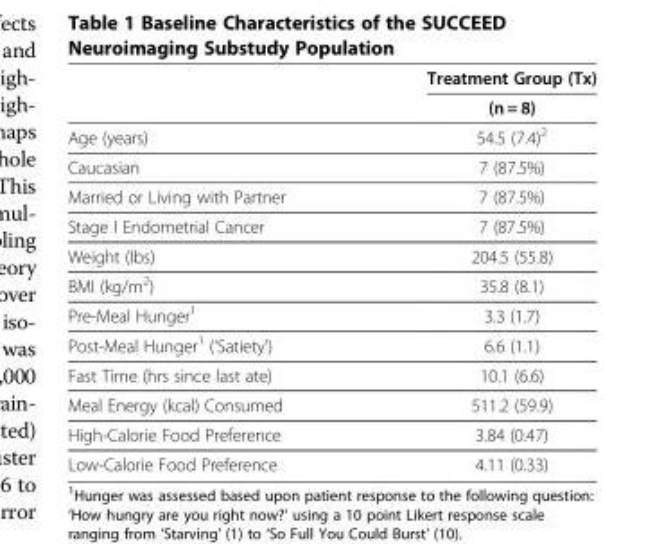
<table><thead><tr><td rowspan="2"></td><td rowspan="2">Treatment Group (Tx) (n = 8)</td></tr><tr></tr></thead><tbody><tr><td>Age (years)</td><td>54.5 (7.4)<sup>2</sup></td></tr><tr><td>Caucasian</td><td>7 (87.5%)</td></tr><tr><td>Married or Living with Partner</td><td>7 (87.5%)</td></tr><tr><td>Stage I Endometrial Cancer</td><td>7 (87.5%)</td></tr><tr><td>Weight (lbs)</td><td>204.5 (55.8)</td></tr><tr><td>BMI (kg/m<sup>2</sup>)</td><td>35.8 (8.1)</td></tr><tr><td>Pre-Meal Hunger<sup>1</sup></td><td>3.3 (1.7)</td></tr><tr><td>Post-Meal Hunger<sup>1</sup> (‘Satiety’)</td><td>6.6 (1.1)</td></tr><tr><td>Fast Time (hrs since last ate)</td><td>10.1 (6.6)</td></tr><tr><td>Meal Energy (kcal) Consumed</td><td>511.2 (59.9)</td></tr><tr><td>High-Calorie Food Preference</td><td>3.84 (0.47)</td></tr><tr><td>Low-Calorie Food Preference</td><td>4.11 (0.33)</td></tr></tbody></table>